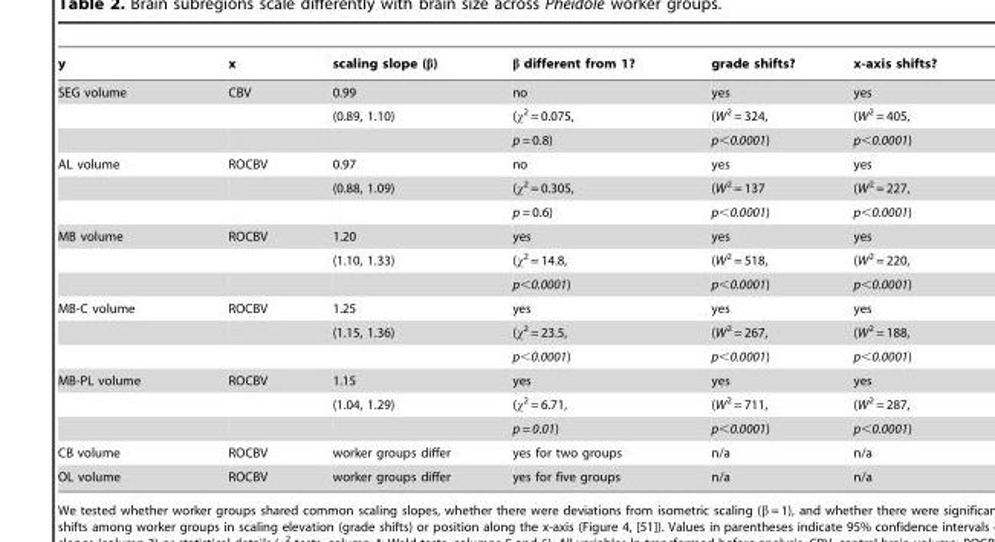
<table><thead><tr><td>y</td><td>x</td><td>scaling slope (β)</td><td>β different from 1?</td><td>grade shifts?</td><td>x-axis shifts?</td></tr></thead><tbody><tr><td rowspan="3">SEG volume</td><td>CBV</td><td>0.99</td><td>no</td><td>yes</td><td>yes</td></tr><tr><td></td><td>(0.89, 1.10)</td><td>(χ<sup>2</sup> = 0.075,</td><td>(W<sup>2</sup> = 324,</td><td>(W<sup>2</sup> = 405,</td></tr><tr><td></td><td></td><td>p = 0.8)</td><td>p&lt;0.0001)</td><td>p&lt;0.0001)</td></tr><tr><td rowspan="3">AL volume</td><td>ROCBV</td><td>0.97</td><td>no</td><td>yes</td><td>yes</td></tr><tr><td></td><td>(0.88, 1.09)</td><td>(χ<sup>2</sup> = 0.305,</td><td>(W<sup>2</sup> = 137</td><td>(W<sup>2</sup> = 227,</td></tr><tr><td></td><td></td><td>p = 0.6)</td><td>p&lt;0.0001)</td><td>p&lt;0.0001)</td></tr><tr><td rowspan="3">MB volume</td><td>ROCBV</td><td>1.20</td><td>yes</td><td>yes</td><td>yes</td></tr><tr><td></td><td>(1.10, 1.33)</td><td>(χ<sup>2</sup> = 14.8,</td><td>(W<sup>2</sup> = 518,</td><td>(W<sup>2</sup> = 220,</td></tr><tr><td></td><td></td><td>p&lt;0.0001)</td><td>p&lt;0.0001)</td><td>p&lt;0.0001)</td></tr><tr><td rowspan="3">MB-C volume</td><td>ROCBV</td><td>1.25</td><td>yes</td><td>yes</td><td>yes</td></tr><tr><td></td><td>(1.15, 1.36)</td><td>(χ<sup>2</sup> = 23.5,</td><td>(W<sup>2</sup> = 267,</td><td>(W<sup>2</sup> = 188,</td></tr><tr><td></td><td></td><td>p&lt;0.0001)</td><td>p&lt;0.0001)</td><td>p&lt;0.0001)</td></tr><tr><td rowspan="3">MB-PL volume</td><td>ROCBV</td><td>1.15</td><td>yes</td><td>yes</td><td>yes</td></tr><tr><td></td><td>(1.04, 1.29)</td><td>(χ<sup>2</sup> = 6.71,</td><td>(W<sup>2</sup> = 711,</td><td>(W<sup>2</sup> = 287,</td></tr><tr><td></td><td></td><td>p = 0.01)</td><td>p&lt;0.0001)</td><td>p&lt;0.0001)</td></tr><tr><td>CB volume</td><td>ROCBV</td><td>worker groups differ</td><td>yes for two groups</td><td>n/a</td><td>n/a</td></tr><tr><td>OL volume</td><td>ROCBV</td><td>worker groups differ</td><td>yes for five groups</td><td>n/a</td><td>n/a</td></tr></tbody></table>